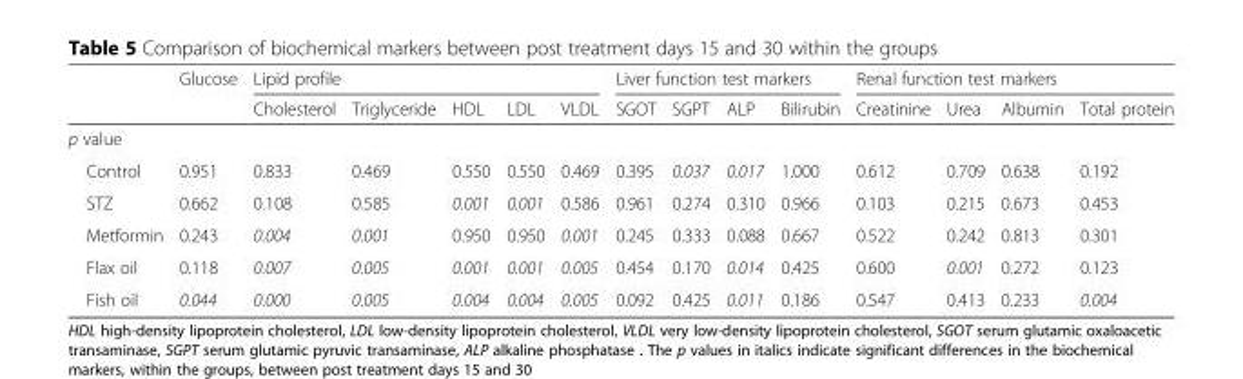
<table><thead><tr><td rowspan="2"></td><td rowspan="2">Glucose</td><td colspan="5">Lipid profile</td><td colspan="4">Liver function test markers</td><td colspan="4">Renal function test markers</td></tr><tr><td>Cholesterol</td><td>Triglyceride</td><td>HDL</td><td>LDL</td><td>VLDL</td><td>SGOT</td><td>SGPT</td><td>ALP</td><td>Bilirubin</td><td>Creatinine</td><td>Urea</td><td>Albumin</td><td>Total protein</td></tr></thead><tbody><tr><td colspan="15">p value</td></tr><tr><td>Control</td><td>0.951</td><td>0.833</td><td>0.469</td><td>0.550</td><td>0.550</td><td>0.469</td><td>0.395</td><td>0.037</td><td>0.017</td><td>1.000</td><td>0.612</td><td>0.709</td><td>0.638</td><td>0.192</td></tr><tr><td>STZ</td><td>0.662</td><td>0.108</td><td>0.585</td><td>0.001</td><td>0.001</td><td>0.586</td><td>0.961</td><td>0.274</td><td>0.310</td><td>0.966</td><td>0.103</td><td>0.215</td><td>0.673</td><td>0.453</td></tr><tr><td>Metformin</td><td>0.243</td><td>0.004</td><td>0.001</td><td>0.950</td><td>0.950</td><td>0.001</td><td>0.245</td><td>0.333</td><td>0.088</td><td>0.667</td><td>0.522</td><td>0.242</td><td>0.813</td><td>0.301</td></tr><tr><td>Flax oil</td><td>0.118</td><td>0.007</td><td>0.005</td><td>0.001</td><td>0.001</td><td>0.005</td><td>0.454</td><td>0.170</td><td>0.014</td><td>0.425</td><td>0.600</td><td>0.001</td><td>0.272</td><td>0.123</td></tr><tr><td>Fish oil</td><td>0.044</td><td>0.000</td><td>0.005</td><td>0.004</td><td>0.004</td><td>0.005</td><td>0.092</td><td>0.425</td><td>0.011</td><td>0.186</td><td>0.547</td><td>0.413</td><td>0.233</td><td>0.004</td></tr></tbody></table>